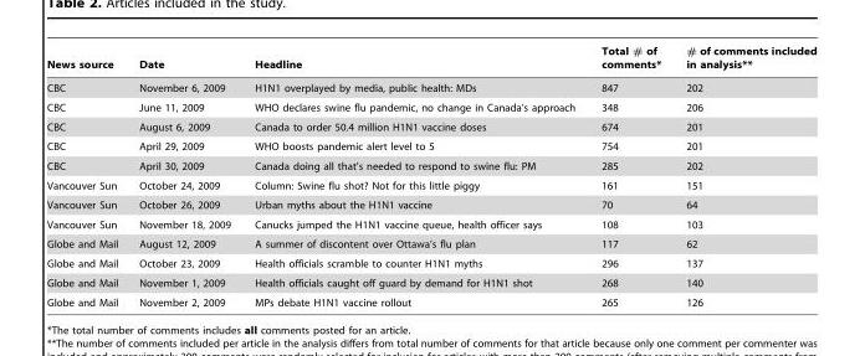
<table><thead><tr><td>News source</td><td>Date</td><td>Headline</td><td>Total # of comments*</td><td># of comments included in analysis**</td></tr></thead><tbody><tr><td>CBC</td><td>November 6, 2009</td><td>H1N1 overplayed by media, public health: MDs</td><td>847</td><td>202</td></tr><tr><td>CBC</td><td>June 11, 2009</td><td>WHO declares swine flu pandemic, no change in Canada’s approach</td><td>348</td><td>206</td></tr><tr><td>CBC</td><td>August 6, 2009</td><td>Canada to order 50.4 million H1N1 vaccine doses</td><td>674</td><td>201</td></tr><tr><td>CBC</td><td>April 29, 2009</td><td>WHO boosts pandemic alert level to 5</td><td>754</td><td>201</td></tr><tr><td>CBC</td><td>April 30, 2009</td><td>Canada doing all that’s needed to respond to swine flu: PM</td><td>285</td><td>202</td></tr><tr><td>Vancouver Sun</td><td>October 24, 2009</td><td>Column: Swine flu shot? Not for this little piggy</td><td>161</td><td>151</td></tr><tr><td>Vancouver Sun</td><td>October 26, 2009</td><td>Urban myths about the H1N1 vaccine</td><td>70</td><td>64</td></tr><tr><td>Vancouver Sun</td><td>November 18, 2009</td><td>Canucks jumped the H1N1 vaccine queue, health officer says</td><td>108</td><td>103</td></tr><tr><td>Globe and Mail</td><td>August 12, 2009</td><td>A summer of discontent over Ottawa’s flu plan</td><td>117</td><td>62</td></tr><tr><td>Globe and Mail</td><td>October 23, 2009</td><td>Health officials scramble to counter H1N1 myths</td><td>296</td><td>137</td></tr><tr><td>Globe and Mail</td><td>November 1, 2009</td><td>Health officials caught off guard by demand for H1N1 shot</td><td>268</td><td>140</td></tr><tr><td>Globe and Mail</td><td>November 2, 2009</td><td>MPs debate H1N1 vaccine rollout</td><td>265</td><td>126</td></tr></tbody></table>